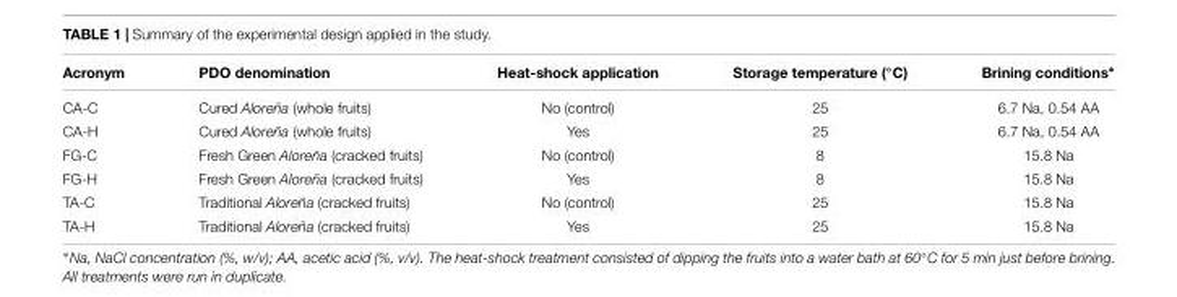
<table><thead><tr><td>Acronym</td><td>PDO denomination</td><td>Heat-shock application</td><td>Storage temperature (◦C)</td><td>Brining conditions∗</td></tr></thead><tbody><tr><td>CA-C</td><td>Cured Aloreña (whole fruits)</td><td>No (control)</td><td>25</td><td>6.7 Na, 0.54 AA</td></tr><tr><td>CA-H</td><td>Cured Aloreña (whole fruits)</td><td>Yes</td><td>25</td><td>6.7 Na, 0.54 AA</td></tr><tr><td>FG-C</td><td>Fresh Green Aloreña (cracked fruits)</td><td>No (control)</td><td>8</td><td>15.8 Na</td></tr><tr><td>FG-H</td><td>Fresh Green Aloreña (cracked fruits)</td><td>Yes</td><td>8</td><td>15.8 Na</td></tr><tr><td>TA-C</td><td>Traditional Aloreña (cracked fruits)</td><td>No (control)</td><td>25</td><td>15.8 Na</td></tr><tr><td>TA-H</td><td>Traditional Aloreña (cracked fruits)</td><td>Yes</td><td>25</td><td>15.8 Na</td></tr></tbody></table>